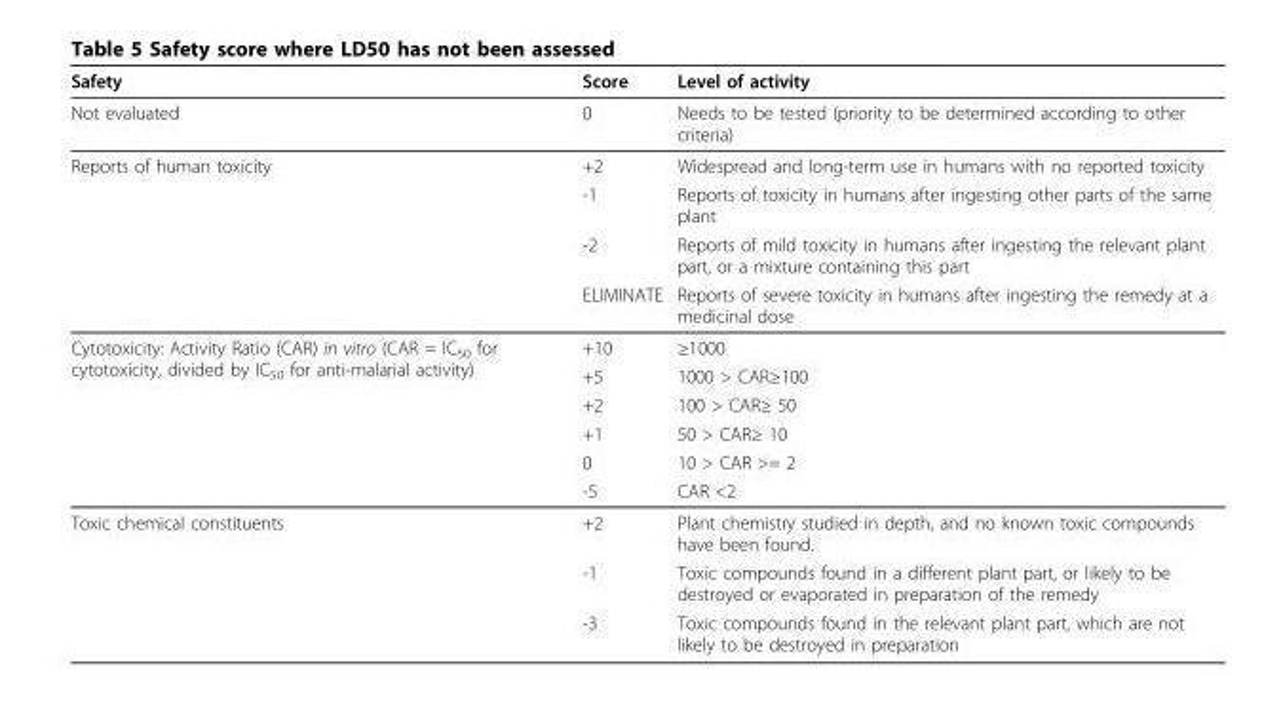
<table><thead><tr><td>Safety</td><td>Score</td><td>Level of activity</td></tr></thead><tbody><tr><td>Not evaluated</td><td>0</td><td>Needs to be tested (priority to be determined according to other criteria)</td></tr><tr><td rowspan="4">Reports of human toxicity</td><td>+2</td><td>Widespread and long-term use in humans with no reported toxicity</td></tr><tr><td>-1</td><td>Reports of toxicity in humans after ingesting other parts of the same plant</td></tr><tr><td>-2</td><td>Reports of mild toxicity in humans after ingesting the relevant plant part, or a mixture containing this part</td></tr><tr><td>ELIMINATE</td><td>Reports of severe toxicity in humans after ingesting the remedy at a medicinal dose</td></tr><tr><td rowspan="6">Cytotoxicity: Activity Ratio (CAR) in vitro (CAR = IC<sub>50</sub> for cytotoxicity, divided by IC<sub>50</sub> for anti-malarial activity)</td><td>+10</td><td>≥1000</td></tr><tr><td>+5</td><td>1000 &gt; CAR≥100</td></tr><tr><td>+2</td><td>100 &gt; CAR≥ 50</td></tr><tr><td>+1</td><td>50 &gt; CAR≥ 10</td></tr><tr><td>0</td><td>10 &gt; CAR &gt;= 2</td></tr><tr><td>-5</td><td>CAR &lt;2</td></tr><tr><td rowspan="3">Toxic chemical constituents</td><td>+2</td><td>Plant chemistry studied in depth, and no known toxic compounds have been found.</td></tr><tr><td>-1</td><td>Toxic compounds found in a different plant part, or likely to be destroyed or evaporated in preparation of the remedy</td></tr><tr><td>-3</td><td>Toxic compounds found in the relevant plant part, which are not likely to be destroyed in preparation</td></tr></tbody></table>